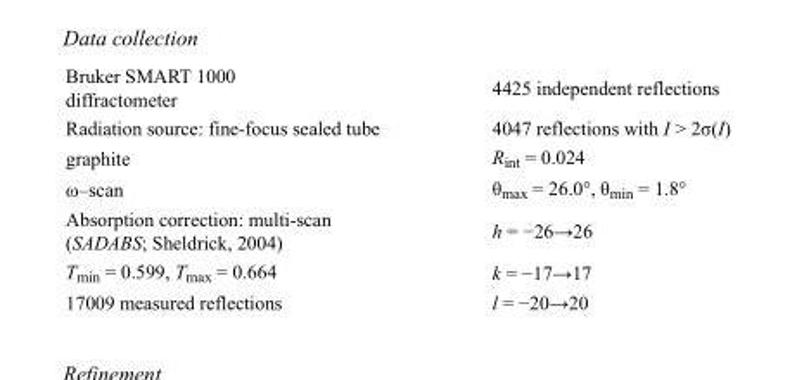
<table><tbody><tr><td>Bruker SMART 1000 diffractometer</td><td>4425 independent reflections</td></tr><tr><td>Radiation source: fine-focus sealed tube</td><td>4047 reflections with I &gt; 2σ(I)</td></tr><tr><td>graphite</td><td>R<sub>int</sub> = 0.024</td></tr><tr><td>ω–scan</td><td>θ<sub>max</sub> = 26.0°, θ<sub>min</sub> = 1.8°</td></tr><tr><td>Absorption correction: multi-scan (SADABS; Sheldrick, 2004)</td><td>h = −26→26</td></tr><tr><td>T<sub>min</sub> = 0.599, T<sub>max</sub> = 0.664</td><td>k = −17→17</td></tr><tr><td>17009 measured reflections</td><td>l = −20→20</td></tr></tbody></table>